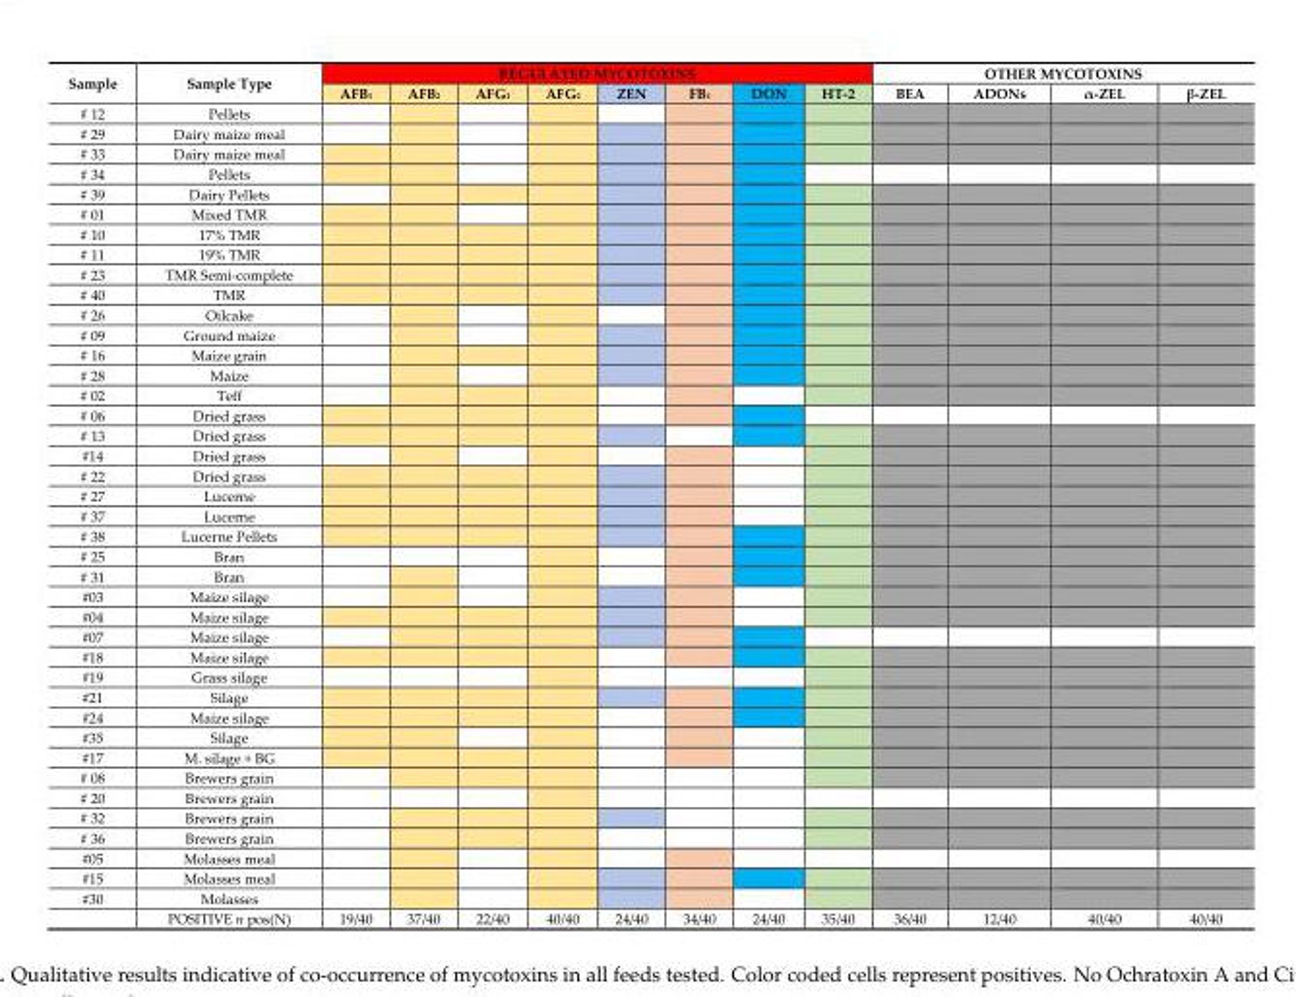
<table><thead><tr><td rowspan="2">Sample</td><td rowspan="2">Sample Type</td><td colspan="8">REGULATED MYCOTOXINS</td><td colspan="4">OTHER MYCOTOXINS</td></tr><tr><td>AFB1</td><td>AFB2</td><td>AFG1</td><td>AFG2</td><td>ZEN</td><td>FB1</td><td>DON</td><td>HT-2</td><td>BEA</td><td>ADONs</td><td>α-ZEL</td><td>β-ZEL</td></tr></thead><tbody><tr><td># 12</td><td>Pellets</td><td></td><td></td><td></td><td></td><td></td><td></td><td></td><td></td><td></td><td></td><td></td><td></td></tr><tr><td># 29</td><td>Dairy maize meal</td><td></td><td></td><td></td><td></td><td></td><td></td><td></td><td></td><td></td><td></td><td></td><td></td></tr><tr><td># 33</td><td>Dairy maize meal</td><td></td><td></td><td></td><td></td><td></td><td></td><td></td><td></td><td></td><td></td><td></td><td></td></tr><tr><td># 34</td><td>Pellets</td><td></td><td></td><td></td><td></td><td></td><td></td><td></td><td></td><td></td><td></td><td></td><td></td></tr><tr><td># 39</td><td>Dairy Pellets</td><td></td><td></td><td></td><td></td><td></td><td></td><td></td><td></td><td></td><td></td><td></td><td></td></tr><tr><td># 01</td><td>Mixed TMR</td><td></td><td></td><td></td><td></td><td></td><td></td><td></td><td></td><td></td><td></td><td></td><td></td></tr><tr><td># 10</td><td>17% TMR</td><td></td><td></td><td></td><td></td><td></td><td></td><td></td><td></td><td></td><td></td><td></td><td></td></tr><tr><td># 11</td><td>19% TMR</td><td></td><td></td><td></td><td></td><td></td><td></td><td></td><td></td><td></td><td></td><td></td><td></td></tr><tr><td># 23</td><td>TMR Semi-complete</td><td></td><td></td><td></td><td></td><td></td><td></td><td></td><td></td><td></td><td></td><td></td><td></td></tr><tr><td># 40</td><td>TMR</td><td></td><td></td><td></td><td></td><td></td><td></td><td></td><td></td><td></td><td></td><td></td><td></td></tr><tr><td># 26</td><td>Oilcake</td><td></td><td></td><td></td><td></td><td></td><td></td><td></td><td></td><td></td><td></td><td></td><td></td></tr><tr><td># 09</td><td>Ground maize</td><td></td><td></td><td></td><td></td><td></td><td></td><td></td><td></td><td></td><td></td><td></td><td></td></tr><tr><td># 16</td><td>Maize grain</td><td></td><td></td><td></td><td></td><td></td><td></td><td></td><td></td><td></td><td></td><td></td><td></td></tr><tr><td># 28</td><td>Maize</td><td></td><td></td><td></td><td></td><td></td><td></td><td></td><td></td><td></td><td></td><td></td><td></td></tr><tr><td># 02</td><td>Teff</td><td></td><td></td><td></td><td></td><td></td><td></td><td></td><td></td><td></td><td></td><td></td><td></td></tr><tr><td># 06</td><td>Dried grass</td><td></td><td></td><td></td><td></td><td></td><td></td><td></td><td></td><td></td><td></td><td></td><td></td></tr><tr><td># 13</td><td>Dried grass</td><td></td><td></td><td></td><td></td><td></td><td></td><td></td><td></td><td></td><td></td><td></td><td></td></tr><tr><td>#14</td><td>Dried grass</td><td></td><td></td><td></td><td></td><td></td><td></td><td></td><td></td><td></td><td></td><td></td><td></td></tr><tr><td># 22</td><td>Dried grass</td><td></td><td></td><td></td><td></td><td></td><td></td><td></td><td></td><td></td><td></td><td></td><td></td></tr><tr><td># 27</td><td>Lucerne</td><td></td><td></td><td></td><td></td><td></td><td></td><td></td><td></td><td></td><td></td><td></td><td></td></tr><tr><td># 37</td><td>Lucerne</td><td></td><td></td><td></td><td></td><td></td><td></td><td></td><td></td><td></td><td></td><td></td><td></td></tr><tr><td># 38</td><td>Lucerne Pellets</td><td></td><td></td><td></td><td></td><td></td><td></td><td></td><td></td><td></td><td></td><td></td><td></td></tr><tr><td># 25</td><td>Bran</td><td></td><td></td><td></td><td></td><td></td><td></td><td></td><td></td><td></td><td></td><td></td><td></td></tr><tr><td># 31</td><td>Bran</td><td></td><td></td><td></td><td></td><td></td><td></td><td></td><td></td><td></td><td></td><td></td><td></td></tr><tr><td>#03</td><td>Maize silage</td><td></td><td></td><td></td><td></td><td></td><td></td><td></td><td></td><td></td><td></td><td></td><td></td></tr><tr><td>#04</td><td>Maize silage</td><td></td><td></td><td></td><td></td><td></td><td></td><td></td><td></td><td></td><td></td><td></td><td></td></tr><tr><td>#07</td><td>Maize silage</td><td></td><td></td><td></td><td></td><td></td><td></td><td></td><td></td><td></td><td></td><td></td><td></td></tr><tr><td>#18</td><td>Maize silage</td><td></td><td></td><td></td><td></td><td></td><td></td><td></td><td></td><td></td><td></td><td></td><td></td></tr><tr><td>#19</td><td>Grass silage</td><td></td><td></td><td></td><td></td><td></td><td></td><td></td><td></td><td></td><td></td><td></td><td></td></tr><tr><td>#21</td><td>Silage</td><td></td><td></td><td></td><td></td><td></td><td></td><td></td><td></td><td></td><td></td><td></td><td></td></tr><tr><td>#24</td><td>Maize silage</td><td></td><td></td><td></td><td></td><td></td><td></td><td></td><td></td><td></td><td></td><td></td><td></td></tr><tr><td>#35</td><td>Silage</td><td></td><td></td><td></td><td></td><td></td><td></td><td></td><td></td><td></td><td></td><td></td><td></td></tr><tr><td>#17</td><td>M. silage + BG</td><td></td><td></td><td></td><td></td><td></td><td></td><td></td><td></td><td></td><td></td><td></td><td></td></tr><tr><td># 08</td><td>Brewers grain</td><td></td><td></td><td></td><td></td><td></td><td></td><td></td><td></td><td></td><td></td><td></td><td></td></tr><tr><td># 20</td><td>Brewers grain</td><td></td><td></td><td></td><td></td><td></td><td></td><td></td><td></td><td></td><td></td><td></td><td></td></tr><tr><td># 32</td><td>Brewers grain</td><td></td><td></td><td></td><td></td><td></td><td></td><td></td><td></td><td></td><td></td><td></td><td></td></tr><tr><td># 36</td><td>Brewers grain</td><td></td><td></td><td></td><td></td><td></td><td></td><td></td><td></td><td></td><td></td><td></td><td></td></tr><tr><td>#05</td><td>Molasses meal</td><td></td><td></td><td></td><td></td><td></td><td></td><td></td><td></td><td></td><td></td><td></td><td></td></tr><tr><td>#15</td><td>Molasses meal</td><td></td><td></td><td></td><td></td><td></td><td></td><td></td><td></td><td></td><td></td><td></td><td></td></tr><tr><td rowspan="2">#30</td><td>Molasses</td><td></td><td></td><td></td><td></td><td></td><td></td><td></td><td></td><td></td><td></td><td></td><td></td></tr><tr><td>POSITIVE n pos(N)</td><td>19/40</td><td>37/40</td><td>22/40</td><td>40/40</td><td>24/40</td><td>34/40</td><td>24/40</td><td>35/40</td><td>36/40</td><td>12/40</td><td>40/40</td><td>40/40</td></tr></tbody></table>